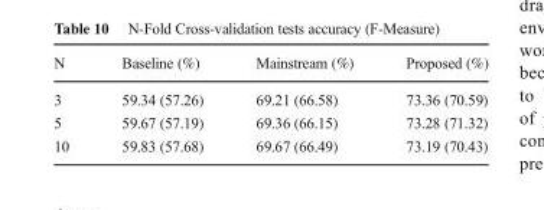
<table><thead><tr><td>N</td><td>Baseline (%)</td><td>Mainstream (%)</td><td>Proposed (%)</td></tr></thead><tbody><tr><td>3</td><td>59.34 (57.26)</td><td>69.21 (66.58)</td><td>73.36 (70.59)</td></tr><tr><td>5</td><td>59.67 (57.19)</td><td>69.36 (66.15)</td><td>73.28 (71.32)</td></tr><tr><td>10</td><td>59.83 (57.68)</td><td>69.67 (66.49)</td><td>73.19 (70.43)</td></tr></tbody></table>